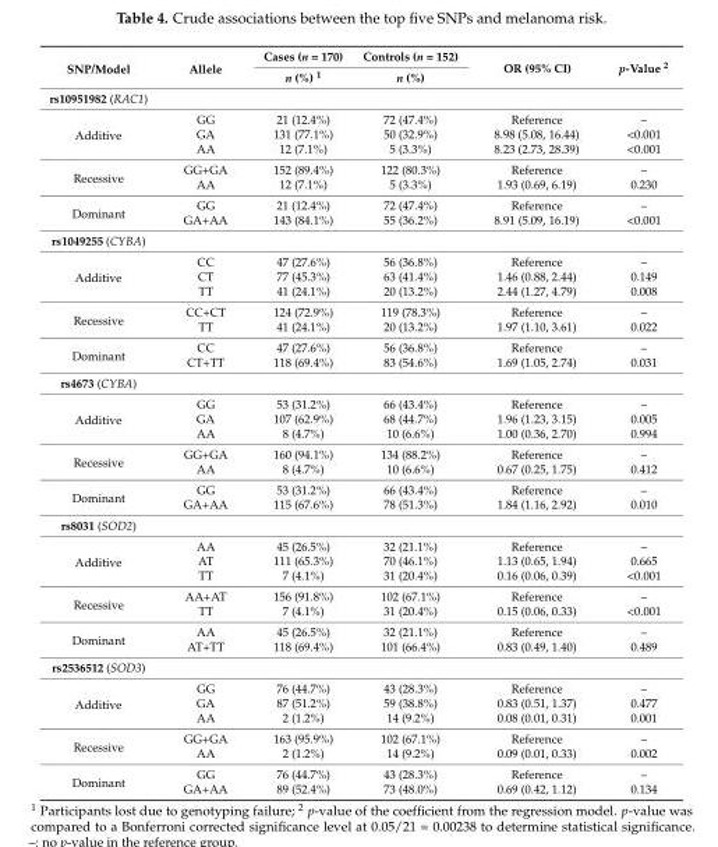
<table><thead><tr><td rowspan="2">SNP/Model</td><td rowspan="2">Allele</td><td rowspan="2">Cases (n = 170) n (%) <sup>1</sup></td><td rowspan="2">Controls (n = 152) n (%)</td><td rowspan="2">OR (95% CI)</td><td rowspan="2">p-Value <sup>2</sup></td></tr><tr></tr></thead><tbody><tr><td colspan="6">rs10951982 (RAC1)</td></tr><tr><td rowspan="3">Additive</td><td>GG</td><td>21 (12.4%)</td><td>72 (47.4%)</td><td>Reference</td><td>–</td></tr><tr><td>GA</td><td>131 (77.1%)</td><td>50 (32.9%)</td><td>8.98 (5.08, 16.44)</td><td>&lt;0.001</td></tr><tr><td>AA</td><td>12 (7.1%)</td><td>5 (3.3%)</td><td>8.23 (2.73, 28.39)</td><td>&lt;0.001</td></tr><tr><td rowspan="2">Recessive</td><td>GG+GA</td><td>152 (89.4%)</td><td>122 (80.3%)</td><td>Reference</td><td>–</td></tr><tr><td>AA</td><td>12 (7.1%)</td><td>5 (3.3%)</td><td>1.93 (0.69, 6.19)</td><td>0.230</td></tr><tr><td rowspan="2">Dominant</td><td>GG</td><td>21 (12.4%)</td><td>72 (47.4%)</td><td>Reference</td><td>–</td></tr><tr><td>GA+AA</td><td>143 (84.1%)</td><td>55 (36.2%)</td><td>8.91 (5.09, 16.19)</td><td>&lt;0.001</td></tr><tr><td colspan="6">rs1049255 (CYBA)</td></tr><tr><td rowspan="3">Additive</td><td>CC</td><td>47 (27.6%)</td><td>56 (36.8%)</td><td>Reference</td><td>–</td></tr><tr><td>CT</td><td>77 (45.3%)</td><td>63 (41.4%)</td><td>1.46 (0.88, 2.44)</td><td>0.149</td></tr><tr><td>TT</td><td>41 (24.1%)</td><td>20 (13.2%)</td><td>2.44 (1.27, 4.79)</td><td>0.008</td></tr><tr><td rowspan="2">Recessive</td><td>CC+CT</td><td>124 (72.9%)</td><td>119 (78.3%)</td><td>Reference</td><td>–</td></tr><tr><td>TT</td><td>41 (24.1%)</td><td>20 (13.2%)</td><td>1.97 (1.10, 3.61)</td><td>0.022</td></tr><tr><td rowspan="2">Dominant</td><td>CC</td><td>47 (27.6%)</td><td>56 (36.8%)</td><td>Reference</td><td>–</td></tr><tr><td>CT+TT</td><td>118 (69.4%)</td><td>83 (54.6%)</td><td>1.69 (1.05, 2.74)</td><td>0.031</td></tr><tr><td colspan="6">rs4673 (CYBA)</td></tr><tr><td rowspan="3">Additive</td><td>GG</td><td>53 (31.2%)</td><td>66 (43.4%)</td><td>Reference</td><td>–</td></tr><tr><td>GA</td><td>107 (62.9%)</td><td>68 (44.7%)</td><td>1.96 (1.23, 3.15)</td><td>0.005</td></tr><tr><td>AA</td><td>8 (4.7%)</td><td>10 (6.6%)</td><td>1.00 (0.36, 2.70)</td><td>0.994</td></tr><tr><td rowspan="2">Recessive</td><td>GG+GA</td><td>160 (94.1%)</td><td>134 (88.2%)</td><td>Reference</td><td>–</td></tr><tr><td>AA</td><td>8 (4.7%)</td><td>10 (6.6%)</td><td>0.67 (0.25, 1.75)</td><td>0.412</td></tr><tr><td rowspan="2">Dominant</td><td>GG</td><td>53 (31.2%)</td><td>66 (43.4%)</td><td>Reference</td><td>–</td></tr><tr><td>GA+AA</td><td>115 (67.6%)</td><td>78 (51.3%)</td><td>1.84 (1.16, 2.92)</td><td>0.010</td></tr><tr><td colspan="6">rs8031 (SOD2)</td></tr><tr><td rowspan="3">Additive</td><td>AA</td><td>45 (26.5%)</td><td>32 (21.1%)</td><td>Reference</td><td>–</td></tr><tr><td>AT</td><td>111 (65.3%)</td><td>70 (46.1%)</td><td>1.13 (0.65, 1.94)</td><td>0.665</td></tr><tr><td>TT</td><td>7 (4.1%)</td><td>31 (20.4%)</td><td>0.16 (0.06, 0.39)</td><td>&lt;0.001</td></tr><tr><td rowspan="2">Recessive</td><td>AA+AT</td><td>156 (91.8%)</td><td>102 (67.1%)</td><td>Reference</td><td>–</td></tr><tr><td>TT</td><td>7 (4.1%)</td><td>31 (20.4%)</td><td>0.15 (0.06, 0.33)</td><td>&lt;0.001</td></tr><tr><td rowspan="2">Dominant</td><td>AA</td><td>45 (26.5%)</td><td>32 (21.1%)</td><td>Reference</td><td>–</td></tr><tr><td>AT+TT</td><td>118 (69.4%)</td><td>101 (66.4%)</td><td>0.83 (0.49, 1.40)</td><td>0.489</td></tr><tr><td colspan="6">rs2536512 (SOD3)</td></tr><tr><td rowspan="3">Additive</td><td>GG</td><td>76 (44.7%)</td><td>43 (28.3%)</td><td>Reference</td><td>–</td></tr><tr><td>GA</td><td>87 (51.2%)</td><td>59 (38.8%)</td><td>0.83 (0.51, 1.37)</td><td>0.477</td></tr><tr><td>AA</td><td>2 (1.2%)</td><td>14 (9.2%)</td><td>0.08 (0.01, 0.31)</td><td>0.001</td></tr><tr><td rowspan="2">Recessive</td><td>GG+GA</td><td>163 (95.9%)</td><td>102 (67.1%)</td><td>Reference</td><td>–</td></tr><tr><td>AA</td><td>2 (1.2%)</td><td>14 (9.2%)</td><td>0.09 (0.01, 0.33)</td><td>0.002</td></tr><tr><td rowspan="2">Dominant</td><td>GG</td><td>76 (44.7%)</td><td>43 (28.3%)</td><td>Reference</td><td>–</td></tr><tr><td>GA+AA</td><td>89 (52.4%)</td><td>73 (48.0%)</td><td>0.69 (0.42, 1.12)</td><td>0.134</td></tr></tbody></table>